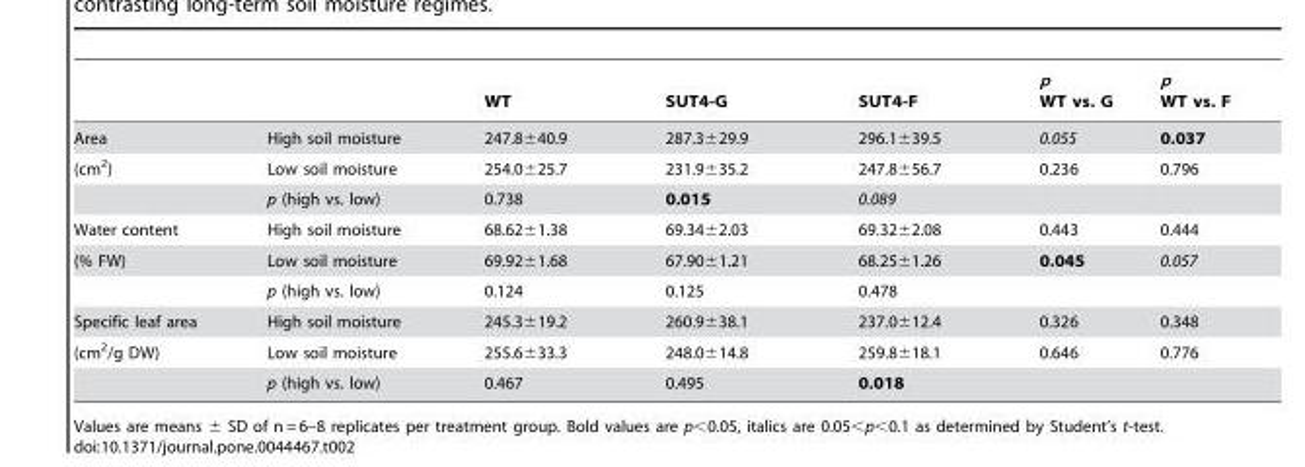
<table><thead><tr><td></td><td></td><td>WT</td><td>SUT4-G</td><td>SUT4-F</td><td>p WT vs. G</td><td>p WT vs. F</td></tr></thead><tbody><tr><td>Area</td><td>High soil moisture</td><td>247.8±40.9</td><td>287.3±29.9</td><td>296.1±39.5</td><td>0.055</td><td>0.037</td></tr><tr><td rowspan="2">(cm<sup>2</sup>)</td><td>Low soil moisture</td><td>254.0±25.7</td><td>231.9±35.2</td><td>247.8±56.7</td><td>0.236</td><td>0.796</td></tr><tr><td>p (high vs. low)</td><td>0.738</td><td>0.015</td><td>0.089</td><td></td><td></td></tr><tr><td>Water content</td><td>High soil moisture</td><td>68.62±1.38</td><td>69.34±2.03</td><td>69.32±2.08</td><td>0.443</td><td>0.444</td></tr><tr><td rowspan="2">(% FW)</td><td>Low soil moisture</td><td>69.92±1.68</td><td>67.90±1.21</td><td>68.25±1.26</td><td>0.045</td><td>0.057</td></tr><tr><td>p (high vs. low)</td><td>0.124</td><td>0.125</td><td>0.478</td><td></td><td></td></tr><tr><td>Specific leaf area</td><td>High soil moisture</td><td>245.3±19.2</td><td>260.9±38.1</td><td>237.0±12.4</td><td>0.326</td><td>0.348</td></tr><tr><td rowspan="2">(cm<sup>2</sup>/g DW)</td><td>Low soil moisture</td><td>255.6±33.3</td><td>248.0±14.8</td><td>259.8±18.1</td><td>0.646</td><td>0.776</td></tr><tr><td>p (high vs. low)</td><td>0.467</td><td>0.495</td><td>0.018</td><td></td><td></td></tr></tbody></table>